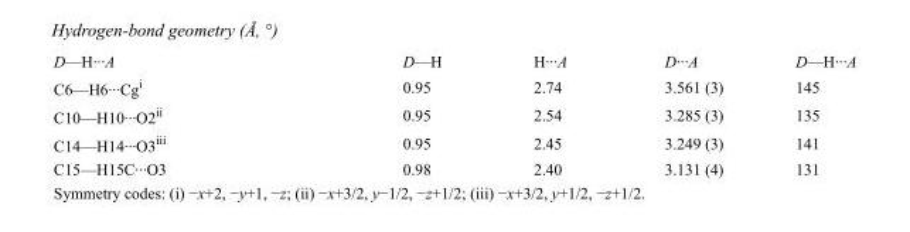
<table><tbody><tr><td>D—H···A</td><td>D—H</td><td>H···A</td><td>D···A</td><td>D—H···A</td></tr><tr><td>C6—H6···Cg<sup>i</sup></td><td>0.95</td><td>2.74</td><td>3.561 (3)</td><td>145</td></tr><tr><td>C10—H10···O2<sup>ii</sup></td><td>0.95</td><td>2.54</td><td>3.285 (3)</td><td>135</td></tr><tr><td>C14—H14···O3<sup>iii</sup></td><td>0.95</td><td>2.45</td><td>3.249 (3)</td><td>141</td></tr><tr><td>C15—H15C···O3</td><td>0.98</td><td>2.40</td><td>3.131 (4)</td><td>131</td></tr></tbody></table>